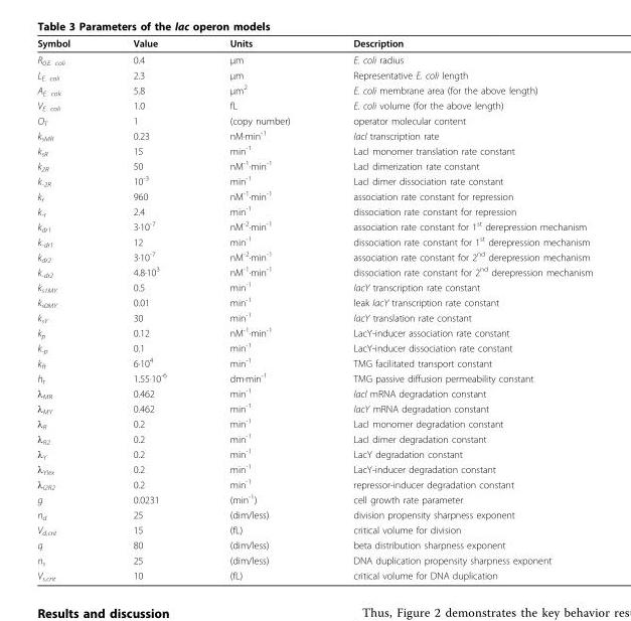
<table><thead><tr><td>Symbol</td><td>Value</td><td>Units</td><td>Description</td></tr></thead><tbody><tr><td>R<sub>0,E. coli</sub></td><td>0.4</td><td>μm</td><td>E. coli radius</td></tr><tr><td>L<sub>E. coli</sub></td><td>2.3</td><td>μm</td><td>Representative E. coli length</td></tr><tr><td>A<sub>E. coli</sub></td><td>5.8</td><td>μm<sup>2</sup></td><td>E. coli membrane area (for the above length)</td></tr><tr><td>V<sub>E. coli</sub></td><td>1.0</td><td>fL</td><td>E. coli volume (for the above length)</td></tr><tr><td>O<sub>T</sub></td><td>1</td><td>(copy number)</td><td>operator molecular content</td></tr><tr><td>k<sub>sMR</sub></td><td>0.23</td><td>nM·min<sup>-1</sup></td><td>lacI transcription rate</td></tr><tr><td>k<sub>sR</sub></td><td>15</td><td>min<sup>-1</sup></td><td>LacI monomer translation rate constant</td></tr><tr><td>k<sub>2R</sub></td><td>50</td><td>nM<sup>-1</sup>·min<sup>-1</sup></td><td>LacI dimerization rate constant</td></tr><tr><td>k<sub>-2R</sub></td><td>10<sup>-3</sup></td><td>min<sup>-1</sup></td><td>LacI dimer dissociation rate constant</td></tr><tr><td>k<sub>r</sub></td><td>960</td><td>nM<sup>-1</sup>·min<sup>-1</sup></td><td>association rate constant for repression</td></tr><tr><td>k<sub>-r</sub></td><td>2.4</td><td>min<sup>-1</sup></td><td>dissociation rate constant for repression</td></tr><tr><td>k<sub>dr1</sub></td><td>3·10<sup>-7</sup></td><td>nM<sup>-2</sup>·min<sup>-1</sup></td><td>association rate constant for 1<sup>st</sup> derepression mechanism</td></tr><tr><td>k<sub>-dr1</sub></td><td>12</td><td>min<sup>-1</sup></td><td>dissociation rate constant for 1<sup>st</sup> derepression mechanism</td></tr><tr><td>k<sub>dr2</sub></td><td>3·10<sup>-7</sup></td><td>nM<sup>-2</sup>·min<sup>-1</sup></td><td>association rate constant for 2<sup>nd</sup> derepression mechanism</td></tr><tr><td>k<sub>-dr2</sub></td><td>4.8·10<sup>3</sup></td><td>nM<sup>-1</sup>·min<sup>-1</sup></td><td>dissociation rate constant for 2<sup>nd</sup> derepression mechanism</td></tr><tr><td>k<sub>s1MY</sub></td><td>0.5</td><td>min<sup>-1</sup></td><td>lacY transcription rate constant</td></tr><tr><td>k<sub>s0MY</sub></td><td>0.01</td><td>min<sup>-1</sup></td><td>leak lacY transcription rate constant</td></tr><tr><td>k<sub>sY</sub></td><td>30</td><td>min<sup>-1</sup></td><td>lacY translation rate constant</td></tr><tr><td>k<sub>p</sub></td><td>0.12</td><td>nM<sup>-1</sup>·min<sup>-1</sup></td><td>LacY-inducer association rate constant</td></tr><tr><td>k<sub>-p</sub></td><td>0.1</td><td>min<sup>-1</sup></td><td>LacY-inducer dissociation rate constant</td></tr><tr><td>k<sub>ft</sub></td><td>6·10<sup>4</sup></td><td>min<sup>-1</sup></td><td>TMG facilitated transport constant</td></tr><tr><td>h<sub>t</sub></td><td>1.55·10<sup>-6</sup></td><td>dm·min<sup>-1</sup></td><td>TMG passive diffusion permeability constant</td></tr><tr><td>λ<sub>MR</sub></td><td>0.462</td><td>min<sup>-1</sup></td><td>lacI mRNA degradation constant</td></tr><tr><td>λ<sub>MY</sub></td><td>0.462</td><td>min<sup>-1</sup></td><td>lacY mRNA degradation constant</td></tr><tr><td>λ<sub>R</sub></td><td>0.2</td><td>min<sup>-1</sup></td><td>LacI monomer degradation constant</td></tr><tr><td>λ<sub>R2</sub></td><td>0.2</td><td>min<sup>-1</sup></td><td>LacI dimer degradation constant</td></tr><tr><td>λ<sub>Y</sub></td><td>0.2</td><td>min<sup>-1</sup></td><td>LacY degradation constant</td></tr><tr><td>λ<sub>YIex</sub></td><td>0.2</td><td>min<sup>-1</sup></td><td>LacY-inducer degradation constant</td></tr><tr><td>λ<sub>I2R2</sub></td><td>0.2</td><td>min<sup>-1</sup></td><td>repressor-inducer degradation constant</td></tr><tr><td>g</td><td>0.0231</td><td>(min<sup>-1</sup>)</td><td>cell growth rate parameter</td></tr><tr><td>n<sub>d</sub></td><td>25</td><td>(dim/less)</td><td>division propensity sharpness exponent</td></tr><tr><td>V<sub>d,crit</sub></td><td>15</td><td>(fL)</td><td>critical volume for division</td></tr><tr><td>q</td><td>80</td><td>(dim/less)</td><td>beta distribution sharpness exponent</td></tr><tr><td>n<sub>s</sub></td><td>25</td><td>(dim/less)</td><td>DNA duplication propensity sharpness exponent</td></tr><tr><td>V<sub>s,crit</sub></td><td>10</td><td>(fL)</td><td>critical volume for DNA duplication</td></tr></tbody></table>